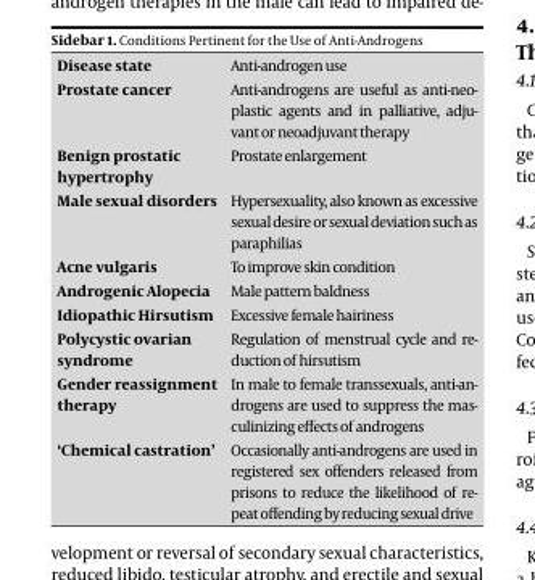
<table><tbody><tr><td>Disease state</td><td>Anti-androgen use</td></tr><tr><td>Prostate cancer</td><td>Anti-androgens are useful as anti-neo- plastic agents and in palliative, adju- vant or neoadjuvant therapy</td></tr><tr><td>Benign prostatic hypertrophy</td><td>Prostate enlargement</td></tr><tr><td>Male sexual disorders</td><td>Hypersexuality, also known as excessive sexual desire or sexual deviation such as paraphilias</td></tr><tr><td>Acne vulgaris</td><td>To improve skin condition</td></tr><tr><td>Androgenic Alopecia</td><td>Male pattern baldness</td></tr><tr><td>Idiopathic Hirsutism</td><td>Excessive female hairiness</td></tr><tr><td>Polycystic ovarian syndrome</td><td>Regulation of menstrual cycle and re- duction of hirsutism</td></tr><tr><td>Gender reassignment therapy</td><td>In male to female transsexuals, anti-an- drogens are used to suppress the mas- culinizing effects of androgens</td></tr><tr><td>‘Chemical castration’</td><td>Occasionally anti-androgens are used in registered sex offenders released from prisons to reduce the likelihood of re- peat offending by reducing sexual drive</td></tr></tbody></table>